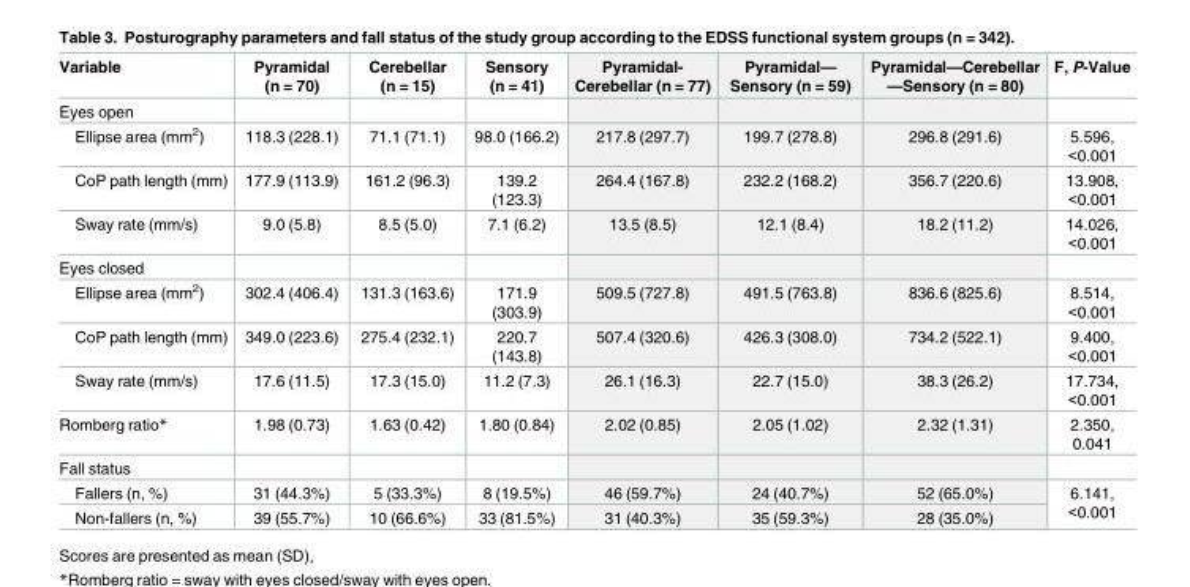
<table><thead><tr><td>Variable</td><td>Pyramidal (n = 70)</td><td>Cerebellar (n = 15)</td><td>Sensory (n = 41)</td><td>Pyramidal- Cerebellar (n = 77)</td><td>Pyramidal— Sensory (n = 59)</td><td>Pyramidal—Cerebellar —Sensory (n = 80)</td><td>F, P-Value</td></tr></thead><tbody><tr><td colspan="8">Eyes open</td></tr><tr><td>Ellipse area (mm<sup>2</sup>)</td><td>118.3 (228.1)</td><td>71.1 (71.1)</td><td>98.0 (166.2)</td><td>217.8 (297.7)</td><td>199.7 (278.8)</td><td>296.8 (291.6)</td><td>5.596, &lt;0.001</td></tr><tr><td>CoP path length (mm)</td><td>177.9 (113.9)</td><td>161.2 (96.3)</td><td>139.2 (123.3)</td><td>264.4 (167.8)</td><td>232.2 (168.2)</td><td>356.7 (220.6)</td><td>13.908, &lt;0.001</td></tr><tr><td>Sway rate (mm/s)</td><td>9.0 (5.8)</td><td>8.5 (5.0)</td><td>7.1 (6.2)</td><td>13.5 (8.5)</td><td>12.1 (8.4)</td><td>18.2 (11.2)</td><td>14.026, &lt;0.001</td></tr><tr><td colspan="8">Eyes closed</td></tr><tr><td>Ellipse area (mm<sup>2</sup>)</td><td>302.4 (406.4)</td><td>131.3 (163.6)</td><td>171.9 (303.9)</td><td>509.5 (727.8)</td><td>491.5 (763.8)</td><td>836.6 (825.6)</td><td>8.514, &lt;0.001</td></tr><tr><td>CoP path length (mm)</td><td>349.0 (223.6)</td><td>275.4 (232.1)</td><td>220.7 (143.8)</td><td>507.4 (320.6)</td><td>426.3 (308.0)</td><td>734.2 (522.1)</td><td>9.400, &lt;0.001</td></tr><tr><td>Sway rate (mm/s)</td><td>17.6 (11.5)</td><td>17.3 (15.0)</td><td>11.2 (7.3)</td><td>26.1 (16.3)</td><td>22.7 (15.0)</td><td>38.3 (26.2)</td><td>17.734, &lt;0.001</td></tr><tr><td>Romberg ratio*</td><td>1.98 (0.73)</td><td>1.63 (0.42)</td><td>1.80 (0.84)</td><td>2.02 (0.85)</td><td>2.05 (1.02)</td><td>2.32 (1.31)</td><td>2.350, 0.041</td></tr><tr><td colspan="8">Fall status</td></tr><tr><td>Fallers (n, %)</td><td>31 (44.3%)</td><td>5 (33.3%)</td><td>8 (19.5%)</td><td>46 (59.7%)</td><td>24 (40.7%)</td><td>52 (65.0%)</td><td rowspan="2">6.141, &lt;0.001</td></tr><tr><td>Non-fallers (n, %)</td><td>39 (55.7%)</td><td>10 (66.6%)</td><td>33 (81.5%)</td><td>31 (40.3%)</td><td>35 (59.3%)</td><td>28 (35.0%)</td></tr></tbody></table>